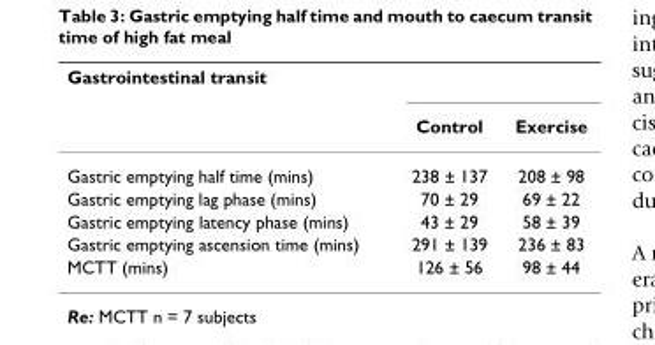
<table><thead><tr><td rowspan="2">Gastrointestinal transit</td><td rowspan="2">Control</td><td rowspan="2">Exercise</td></tr><tr></tr></thead><tbody><tr><td>Gastric emptying half time (mins)</td><td>238 ± 137</td><td>208 ± 98</td></tr><tr><td>Gastric emptying lag phase (mins)</td><td>70 ± 29</td><td>69 ± 22</td></tr><tr><td>Gastric emptying latency phase (mins)</td><td>43 ± 29</td><td>58 ± 39</td></tr><tr><td>Gastric emptying ascension time (mins)</td><td>291 ± 139</td><td>236 ± 83</td></tr><tr><td>MCTT (mins)</td><td>126 ± 56</td><td>98 ± 44</td></tr></tbody></table>